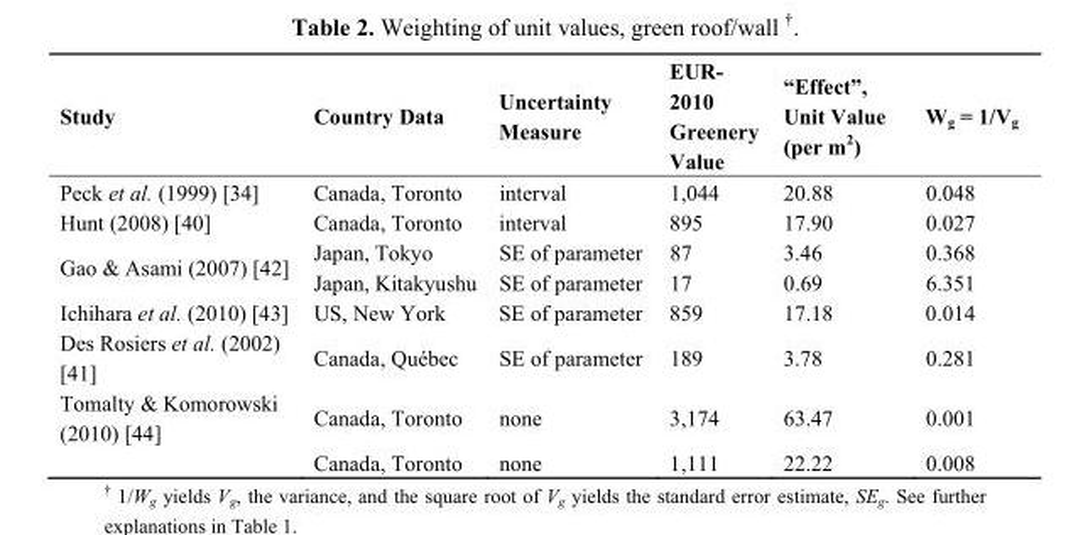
<table><thead><tr><td>Study</td><td>Country Data</td><td>Uncertainty Measure</td><td>EUR- 2010 Greenery Value</td><td>“Effect”, Unit Value (per m<sup>2</sup>)</td><td>W<sub>g</sub> = 1/V<sub>g</sub></td></tr></thead><tbody><tr><td>Peck et al. (1999) [34]</td><td>Canada, Toronto</td><td>interval</td><td>1,044</td><td>20.88</td><td>0.048</td></tr><tr><td>Hunt (2008) [40]</td><td>Canada, Toronto</td><td>interval</td><td>895</td><td>17.90</td><td>0.027</td></tr><tr><td rowspan="2">Gao &amp; Asami (2007) [42]</td><td>Japan, Tokyo</td><td>SE of parameter</td><td>87</td><td>3.46</td><td>0.368</td></tr><tr><td>Japan, Kitakyushu</td><td>SE of parameter</td><td>17</td><td>0.69</td><td>6.351</td></tr><tr><td>Ichihara et al. (2010) [43]</td><td>US, New York</td><td>SE of parameter</td><td>859</td><td>17.18</td><td>0.014</td></tr><tr><td>Des Rosiers et al. (2002) [41]</td><td>Canada, Québec</td><td>SE of parameter</td><td>189</td><td>3.78</td><td>0.281</td></tr><tr><td rowspan="2">Tomalty &amp; Komorowski (2010) [44]</td><td>Canada, Toronto</td><td>none</td><td>3,174</td><td>63.47</td><td>0.001</td></tr><tr><td>Canada, Toronto</td><td>none</td><td>1,111</td><td>22.22</td><td>0.008</td></tr></tbody></table>